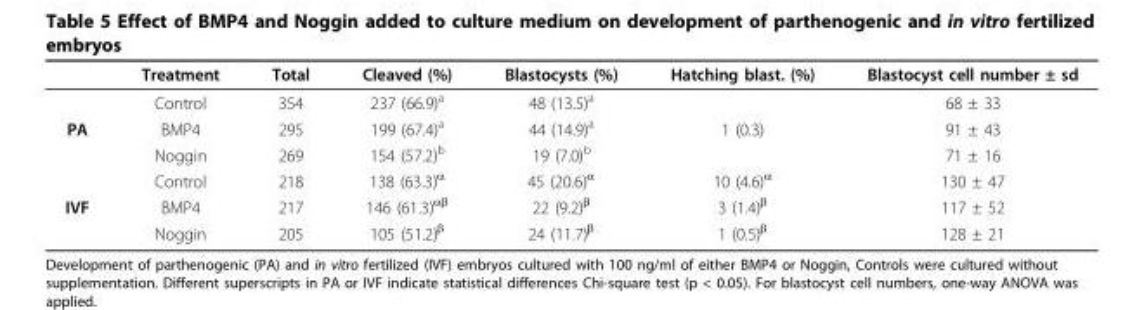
<table><thead><tr><td></td><td>Treatment</td><td>Total</td><td>Cleaved (%)</td><td>Blastocysts (%)</td><td>Hatching blast. (%)</td><td>Blastocyst cell number ± sd</td></tr></thead><tbody><tr><td></td><td>Control</td><td>354</td><td>237 (66.9)<sup>a</sup></td><td>48 (13.5)<sup>a</sup></td><td></td><td>68 ± 33</td></tr><tr><td rowspan="3">PA</td><td>BMP4</td><td>295</td><td>199 (67.4)<sup>a</sup></td><td>44 (14.9)<sup>a</sup></td><td>1 (0.3)</td><td>91 ± 43</td></tr><tr><td>Noggin</td><td>269</td><td>154 (57.2)<sup>b</sup></td><td>19 (7.0)<sup>b</sup></td><td></td><td>71 ± 16</td></tr><tr><td>Control</td><td>218</td><td>138 (63.3)<sup>α</sup></td><td>45 (20.6)<sup>α</sup></td><td>10 (4.6)<sup>α</sup></td><td>130 ± 47</td></tr><tr><td rowspan="2">IVF</td><td>BMP4</td><td>217</td><td>146 (61.3)<sup>αβ</sup></td><td>22 (9.2)<sup>β</sup></td><td>3 (1.4)<sup>β</sup></td><td>117 ± 52</td></tr><tr><td>Noggin</td><td>205</td><td>105 (51.2)<sup>β</sup></td><td>24 (11.7)<sup>β</sup></td><td>1 (0.5)<sup>β</sup></td><td>128 ± 21</td></tr></tbody></table>